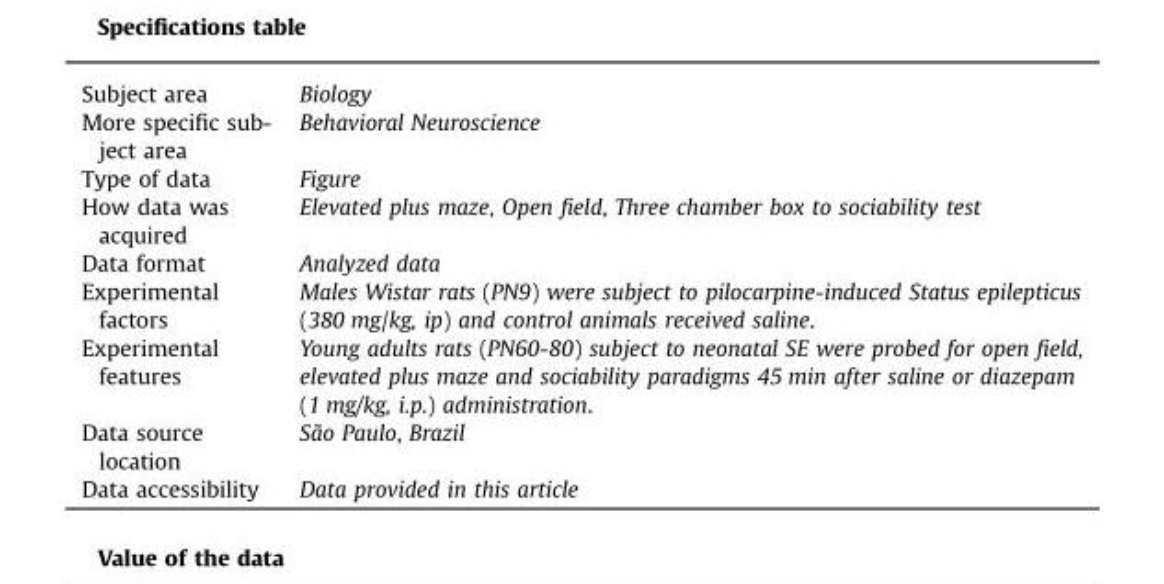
<table><tbody><tr><td>Subject area</td><td>Biology</td></tr><tr><td>More specific sub- ject area</td><td>Behavioral Neuroscience</td></tr><tr><td>Type of data</td><td>Figure</td></tr><tr><td>How data was acquired</td><td>Elevated plus maze, Open field, Three chamber box to sociability test</td></tr><tr><td>Data format</td><td>Analyzed data</td></tr><tr><td>Experimental factors</td><td>Males Wistar rats (PN9) were subject to pilocarpine-induced Status epilepticus (380 mg/kg, ip) and control animals received saline.</td></tr><tr><td>Experimental features</td><td>Young adults rats (PN60-80) subject to neonatal SE were probed for open field, elevated plus maze and sociability paradigms 45 min after saline or diazepam (1 mg/kg, i.p.) administration.</td></tr><tr><td>Data source location</td><td>São Paulo, Brazil</td></tr><tr><td>Data accessibility</td><td>Data provided in this article</td></tr></tbody></table>